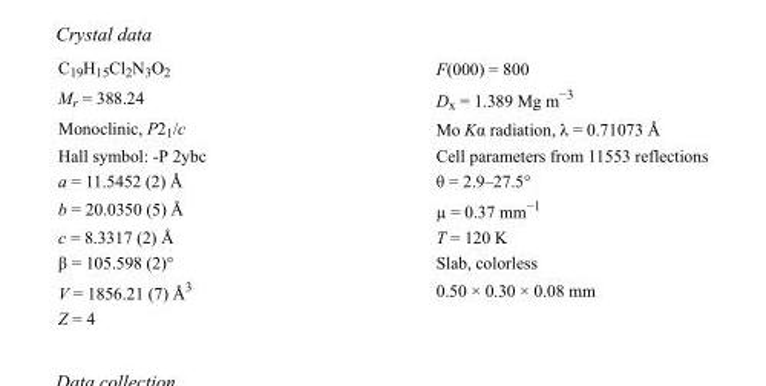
<table><tbody><tr><td>C<sub>19</sub>H<sub>15</sub>Cl<sub>2</sub>N<sub>3</sub>O<sub>2</sub></td><td>F(000) = 800</td></tr><tr><td>M<sub>r</sub> = 388.24</td><td>D<sub>x</sub> = 1.389 Mg m<sup>−3</sup></td></tr><tr><td>Monoclinic, P2<sub>1</sub>/c</td><td>Mo Kα radiation, λ = 0.71073 Å</td></tr><tr><td>Hall symbol: -P 2ybc</td><td>Cell parameters from 11553 reflections</td></tr><tr><td>a = 11.5452 (2) Å</td><td>θ = 2.9–27.5°</td></tr><tr><td>b = 20.0350 (5) Å</td><td>µ = 0.37 mm<sup>−1</sup></td></tr><tr><td>c = 8.3317 (2) Å</td><td>T = 120 K</td></tr><tr><td>β = 105.598 (2)°</td><td>Slab, colorless</td></tr><tr><td>V = 1856.21 (7) Å<sup>3</sup></td><td>0.50 × 0.30 × 0.08 mm</td></tr><tr><td>Z = 4</td><td></td></tr></tbody></table>